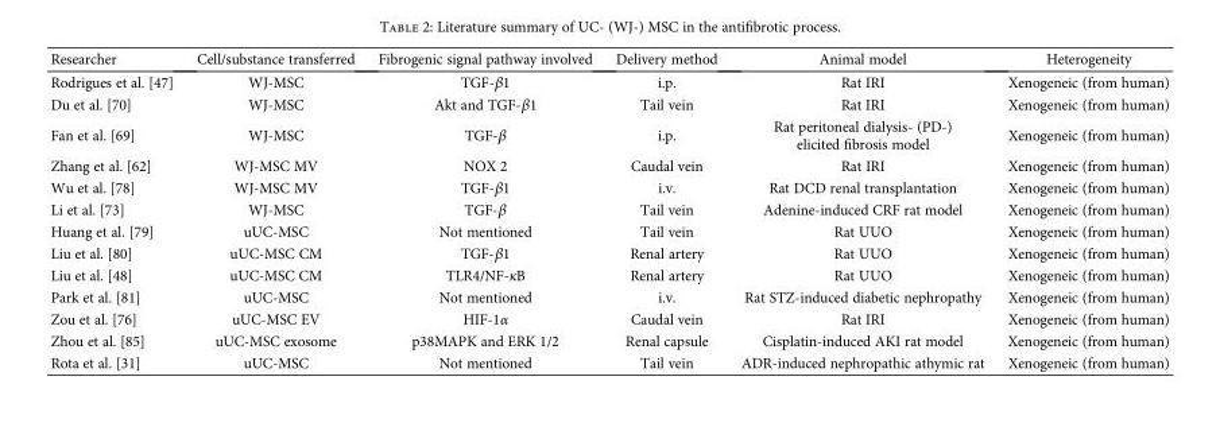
<table><thead><tr><td>Researcher</td><td>Cell/substance transferred</td><td>Fibrogenic signal pathway involved</td><td>Delivery method</td><td>Animal model</td><td>Heterogeneity</td></tr></thead><tbody><tr><td>Rodrigues et al. [47]</td><td>WJ-MSC</td><td>TGF-β1</td><td>i.p.</td><td>Rat IRI</td><td>Xenogeneic (from human)</td></tr><tr><td>Du et al. [70]</td><td>WJ-MSC</td><td>Akt and TGF-β1</td><td>Tail vein</td><td>Rat IRI</td><td>Xenogeneic (from human)</td></tr><tr><td>Fan et al. [69]</td><td>WJ-MSC</td><td>TGF-β</td><td>i.p.</td><td>Rat peritoneal dialysis- (PD-) elicited fibrosis model</td><td>Xenogeneic (from human)</td></tr><tr><td>Zhang et al. [62]</td><td>WJ-MSC MV</td><td>NOX 2</td><td>Caudal vein</td><td>Rat IRI</td><td>Xenogeneic (from human)</td></tr><tr><td>Wu et al. [78]</td><td>WJ-MSC MV</td><td>TGF-β1</td><td>i.v.</td><td>Rat DCD renal transplantation</td><td>Xenogeneic (from human)</td></tr><tr><td>Li et al. [73]</td><td>WJ-MSC</td><td>TGF-β</td><td>Tail vein</td><td>Adenine-induced CRF rat model</td><td>Xenogeneic (from human)</td></tr><tr><td>Huang et al. [79]</td><td>uUC-MSC</td><td>Not mentioned</td><td>Tail vein</td><td>Rat UUO</td><td>Xenogeneic (from human)</td></tr><tr><td>Liu et al. [80]</td><td>uUC-MSC CM</td><td>TGF-β1</td><td>Renal artery</td><td>Rat UUO</td><td>Xenogeneic (from human)</td></tr><tr><td>Liu et al. [48]</td><td>uUC-MSC CM</td><td>TLR4/NF-κB</td><td>Renal artery</td><td>Rat UUO</td><td>Xenogeneic (from human)</td></tr><tr><td>Park et al. [81]</td><td>uUC-MSC</td><td>Not mentioned</td><td>i.v.</td><td>Rat STZ-induced diabetic nephropathy</td><td>Xenogeneic (from human)</td></tr><tr><td>Zou et al. [76]</td><td>uUC-MSC EV</td><td>HIF-1α</td><td>Caudal vein</td><td>Rat IRI</td><td>Xenogeneic (from human)</td></tr><tr><td>Zhou et al. [85]</td><td>uUC-MSC exosome</td><td>p38MAPK and ERK 1/2</td><td>Renal capsule</td><td>Cisplatin-induced AKI rat model</td><td>Xenogeneic (from human)</td></tr><tr><td>Rota et al. [31]</td><td>uUC-MSC</td><td>Not mentioned</td><td>Tail vein</td><td>ADR-induced nephropathic athymic rat</td><td>Xenogeneic (from human)</td></tr></tbody></table>